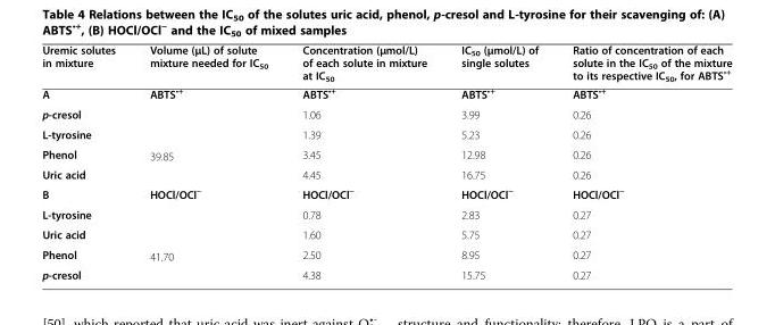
<table><thead><tr><td>Uremic solutes in mixture</td><td>Volume (μL) of solute mixture needed for IC<sub>50</sub></td><td>Concentration (μmol/L) of each solute in mixture at IC<sub>50</sub></td><td>IC<sub>50</sub> (μmol/L) of single solutes</td><td>Ratio of concentration of each solute in the IC<sub>50</sub> of the mixture to its respective IC<sub>50</sub>, for ABTS<sup>•+</sup></td></tr></thead><tbody><tr><td>A</td><td>ABTS<sup>•+</sup></td><td>ABTS<sup>•+</sup></td><td>ABTS<sup>•+</sup></td><td>ABTS<sup>•+</sup></td></tr><tr><td>p-cresol</td><td></td><td>1.06</td><td>3.99</td><td>0.26</td></tr><tr><td>L-tyrosine</td><td rowspan="3">39.85</td><td>1.39</td><td>5.23</td><td>0.26</td></tr><tr><td>Phenol</td><td>3.45</td><td>12.98</td><td>0.26</td></tr><tr><td>Uric acid</td><td>4.45</td><td>16.75</td><td>0.26</td></tr><tr><td>B</td><td>HOCl/OCl<sup>−</sup></td><td>HOCl/OCl<sup>−</sup></td><td>HOCl/OCl<sup>−</sup></td><td>HOCl/OCl<sup>−</sup></td></tr><tr><td>L-tyrosine</td><td></td><td>0.78</td><td>2.83</td><td>0.27</td></tr><tr><td>Uric acid</td><td rowspan="3">41.70</td><td>1.60</td><td>5.75</td><td>0.27</td></tr><tr><td>Phenol</td><td>2.50</td><td>8.95</td><td>0.27</td></tr><tr><td>p-cresol</td><td>4.38</td><td>15.75</td><td>0.27</td></tr></tbody></table>